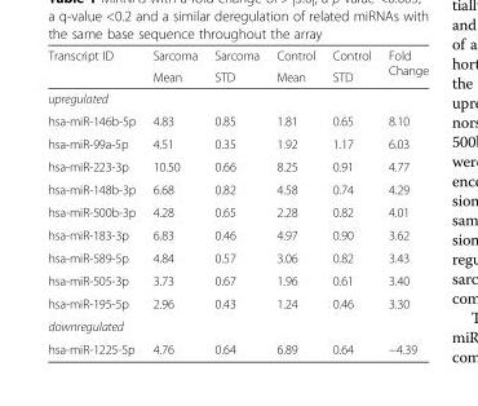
<table><thead><tr><td rowspan="2">Transcript ID</td><td rowspan="2">Sarcoma Mean</td><td rowspan="2">Sarcoma STD</td><td rowspan="2">Control Mean</td><td rowspan="2">Control STD</td><td rowspan="2">Fold Change</td></tr><tr></tr></thead><tbody><tr><td colspan="6">upregulated</td></tr><tr><td>hsa-miR-146b-5p</td><td>4.83</td><td>0.85</td><td>1.81</td><td>0.65</td><td>8.10</td></tr><tr><td>hsa-miR-99a-5p</td><td>4.51</td><td>0.35</td><td>1.92</td><td>1.17</td><td>6.03</td></tr><tr><td>hsa-miR-223-3p</td><td>10.50</td><td>0.66</td><td>8.25</td><td>0.91</td><td>4.77</td></tr><tr><td>hsa-miR-148b-3p</td><td>6.68</td><td>0.82</td><td>4.58</td><td>0.74</td><td>4.29</td></tr><tr><td>hsa-miR-500b-3p</td><td>4.28</td><td>0.65</td><td>2.28</td><td>0.82</td><td>4.01</td></tr><tr><td>hsa-miR-183-3p</td><td>6.83</td><td>0.46</td><td>4.97</td><td>0.90</td><td>3.62</td></tr><tr><td>hsa-miR-589-5p</td><td>4.84</td><td>0.57</td><td>3.06</td><td>0.82</td><td>3.43</td></tr><tr><td>hsa-miR-505-3p</td><td>3.73</td><td>0.67</td><td>1.96</td><td>0.61</td><td>3.40</td></tr><tr><td>hsa-miR-195-5p</td><td>2.96</td><td>0.43</td><td>1.24</td><td>0.46</td><td>3.30</td></tr><tr><td colspan="6">downregulated</td></tr><tr><td>hsa-miR-1225-5p</td><td>4.76</td><td>0.64</td><td>6.89</td><td>0.64</td><td>−4.39</td></tr></tbody></table>